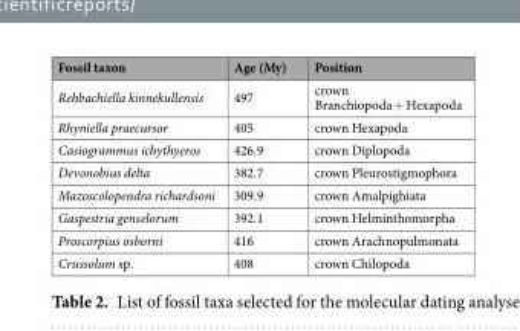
<table><thead><tr><td>Fossil taxon</td><td>Age (My)</td><td>Position</td></tr></thead><tbody><tr><td>Rehbachiella kinnekullensis</td><td>497</td><td>crown Branchiopoda + Hexapoda</td></tr><tr><td>Rhyniella praecursor</td><td>405</td><td>crown Hexapoda</td></tr><tr><td>Casiogrammus ichythyeros</td><td>426.9</td><td>crown Diplopoda</td></tr><tr><td>Devonobius delta</td><td>382.7</td><td>crown Pleurostigmophora</td></tr><tr><td>Mazoscolopendra richardsoni</td><td>309.9</td><td>crown Amalpighiata</td></tr><tr><td>Gaspestria genselorum</td><td>392.1</td><td>crown Helminthomorpha</td></tr><tr><td>Proscorpius osborni</td><td>416</td><td>crown Arachnopulmonata</td></tr><tr><td>Crussolum sp.</td><td>408</td><td>crown Chilopoda</td></tr></tbody></table>